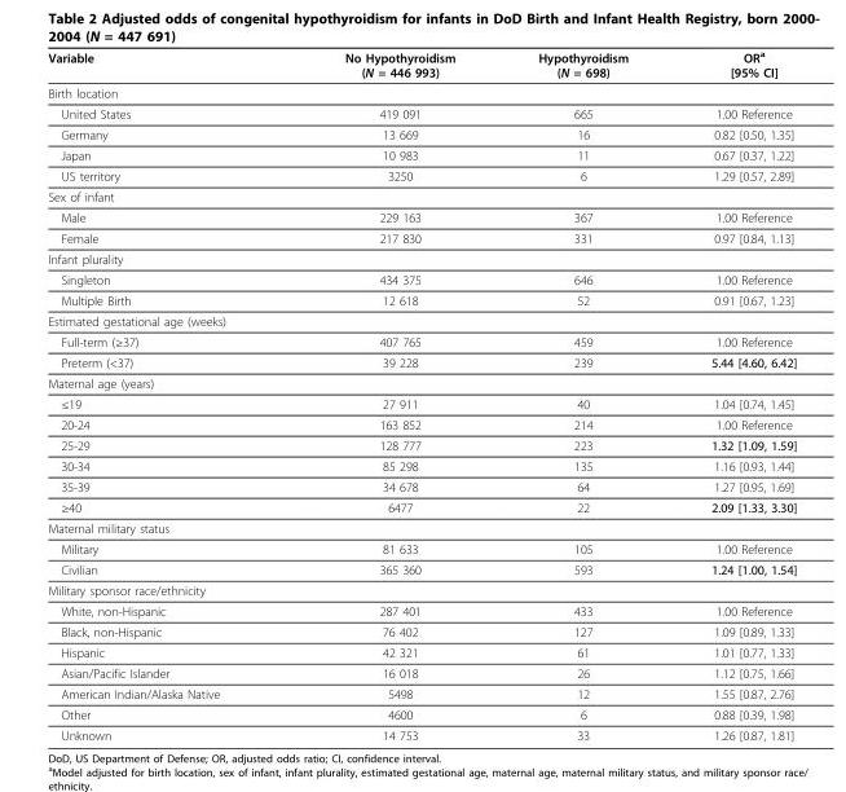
<table><thead><tr><td>Variable</td><td>No Hypothyroidism (N = 446 993)</td><td>Hypothyroidism (N = 698)</td><td>OR<sup>a</sup> [95% CI]</td></tr></thead><tbody><tr><td colspan="4">Birth location</td></tr><tr><td>United States</td><td>419 091</td><td>665</td><td>1.00 Reference</td></tr><tr><td>Germany</td><td>13 669</td><td>16</td><td>0.82 [0.50, 1.35]</td></tr><tr><td>Japan</td><td>10 983</td><td>11</td><td>0.67 [0.37, 1.22]</td></tr><tr><td>US territory</td><td>3250</td><td>6</td><td>1.29 [0.57, 2.89]</td></tr><tr><td colspan="4">Sex of infant</td></tr><tr><td>Male</td><td>229 163</td><td>367</td><td>1.00 Reference</td></tr><tr><td>Female</td><td>217 830</td><td>331</td><td>0.97 [0.84, 1.13]</td></tr><tr><td colspan="4">Infant plurality</td></tr><tr><td>Singleton</td><td>434 375</td><td>646</td><td>1.00 Reference</td></tr><tr><td>Multiple Birth</td><td>12 618</td><td>52</td><td>0.91 [0.67, 1.23]</td></tr><tr><td colspan="4">Estimated gestational age (weeks)</td></tr><tr><td>Full-term (≥37)</td><td>407 765</td><td>459</td><td>1.00 Reference</td></tr><tr><td>Preterm (&lt;37)</td><td>39 228</td><td>239</td><td>5.44 [4.60, 6.42]</td></tr><tr><td colspan="4">Maternal age (years)</td></tr><tr><td>≤19</td><td>27 911</td><td>40</td><td>1.04 [0.74, 1.45]</td></tr><tr><td>20-24</td><td>163 852</td><td>214</td><td>1.00 Reference</td></tr><tr><td>25-29</td><td>128 777</td><td>223</td><td>1.32 [1.09, 1.59]</td></tr><tr><td>30-34</td><td>85 298</td><td>135</td><td>1.16 [0.93, 1.44]</td></tr><tr><td>35-39</td><td>34 678</td><td>64</td><td>1.27 [0.95, 1.69]</td></tr><tr><td>≥40</td><td>6477</td><td>22</td><td>2.09 [1.33, 3.30]</td></tr><tr><td colspan="4">Maternal military status</td></tr><tr><td>Military</td><td>81 633</td><td>105</td><td>1.00 Reference</td></tr><tr><td>Civilian</td><td>365 360</td><td>593</td><td>1.24 [1.00, 1.54]</td></tr><tr><td colspan="4">Military sponsor race/ethnicity</td></tr><tr><td>White, non-Hispanic</td><td>287 401</td><td>433</td><td>1.00 Reference</td></tr><tr><td>Black, non-Hispanic</td><td>76 402</td><td>127</td><td>1.09 [0.89, 1.33]</td></tr><tr><td>Hispanic</td><td>42 321</td><td>61</td><td>1.01 [0.77, 1.33]</td></tr><tr><td>Asian/Pacific Islander</td><td>16 018</td><td>26</td><td>1.12 [0.75, 1.66]</td></tr><tr><td>American Indian/Alaska Native</td><td>5498</td><td>12</td><td>1.55 [0.87, 2.76]</td></tr><tr><td>Other</td><td>4600</td><td>6</td><td>0.88 [0.39, 1.98]</td></tr><tr><td>Unknown</td><td>14 753</td><td>33</td><td>1.26 [0.87, 1.81]</td></tr></tbody></table>